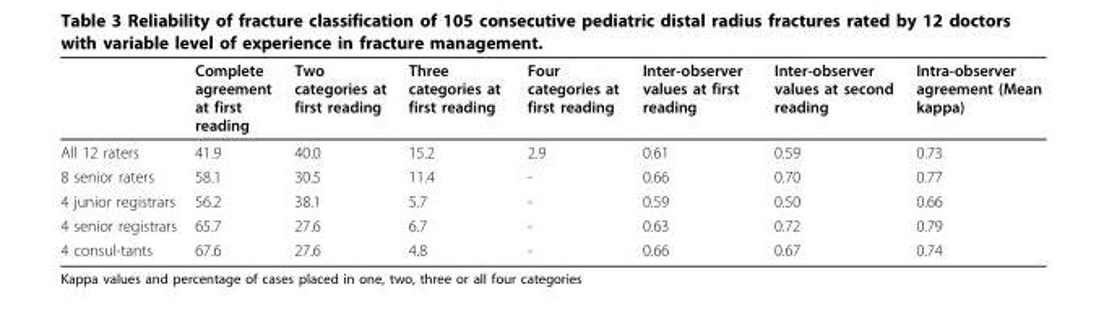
<table><thead><tr><td></td><td>Complete agreement at first reading</td><td>Two categories at first reading</td><td>Three categories at first reading</td><td>Four categories at first reading</td><td>Inter-observer values at first reading</td><td>Inter-observer values at second reading</td><td>Intra-observer agreement (Mean kappa)</td></tr></thead><tbody><tr><td>All 12 raters</td><td>41.9</td><td>40.0</td><td>15.2</td><td>2.9</td><td>0.61</td><td>0.59</td><td>0.73</td></tr><tr><td>8 senior raters</td><td>58.1</td><td>30.5</td><td>11.4</td><td>-</td><td>0.66</td><td>0.70</td><td>0.77</td></tr><tr><td>4 junior registrars</td><td>56.2</td><td>38.1</td><td>5.7</td><td>-</td><td>0.59</td><td>0.50</td><td>0.66</td></tr><tr><td>4 senior registrars</td><td>65.7</td><td>27.6</td><td>6.7</td><td>-</td><td>0.63</td><td>0.72</td><td>0.79</td></tr><tr><td>4 consul-tants</td><td>67.6</td><td>27.6</td><td>4.8</td><td>-</td><td>0.66</td><td>0.67</td><td>0.74</td></tr></tbody></table>